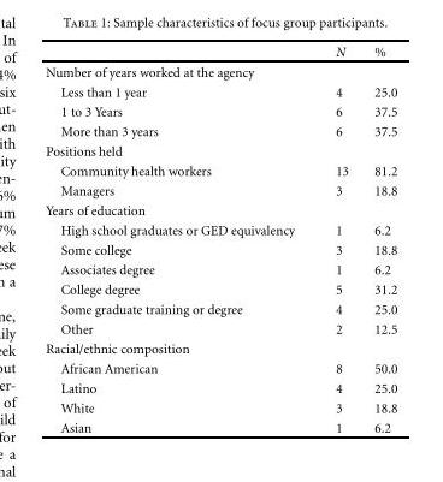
<table><thead><tr><td></td><td>N</td><td>%</td></tr></thead><tbody><tr><td colspan="3">Number of years worked at the agency</td></tr><tr><td>Less than 1 year</td><td>4</td><td>25.0</td></tr><tr><td>1 to 3 Years</td><td>6</td><td>37.5</td></tr><tr><td>More than 3 years</td><td>6</td><td>37.5</td></tr><tr><td colspan="3">Positions held</td></tr><tr><td>Community health workers</td><td>13</td><td>81.2</td></tr><tr><td>Managers</td><td>3</td><td>18.8</td></tr><tr><td colspan="3">Years of education</td></tr><tr><td>High school graduates or GED equivalency</td><td>1</td><td>6.2</td></tr><tr><td>Some college</td><td>3</td><td>18.8</td></tr><tr><td>Associates degree</td><td>1</td><td>6.2</td></tr><tr><td>College degree</td><td>5</td><td>31.2</td></tr><tr><td>Some graduate training or degree</td><td>4</td><td>25.0</td></tr><tr><td>Other</td><td>2</td><td>12.5</td></tr><tr><td colspan="3">Racial/ethnic composition</td></tr><tr><td>African American</td><td>8</td><td>50.0</td></tr><tr><td>Latino</td><td>4</td><td>25.0</td></tr><tr><td>White</td><td>3</td><td>18.8</td></tr><tr><td>Asian</td><td>1</td><td>6.2</td></tr></tbody></table>